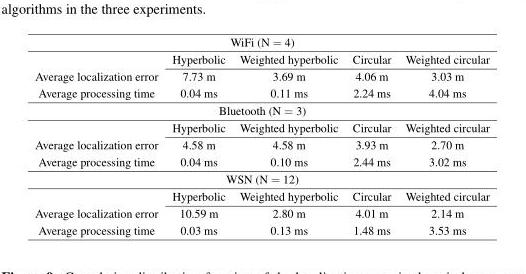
<table><tbody><tr><td colspan="5">WiFi (N = 4)</td></tr><tr><td></td><td>Hyperbolic</td><td>Weighted hyperbolic</td><td>Circular</td><td>Weighted circular</td></tr><tr><td>Average localization error</td><td>7.73 m</td><td>3.69 m</td><td>4.06 m</td><td>3.03 m</td></tr><tr><td>Average processing time</td><td>0.04 ms</td><td>0.11 ms</td><td>2.24 ms</td><td>4.04 ms</td></tr><tr><td colspan="5">Bluetooth (N = 3)</td></tr><tr><td></td><td>Hyperbolic</td><td>Weighted hyperbolic</td><td>Circular</td><td>Weighted circular</td></tr><tr><td>Average localization error</td><td>4.58 m</td><td>4.58 m</td><td>3.93 m</td><td>2.70 m</td></tr><tr><td>Average processing time</td><td>0.04 ms</td><td>0.10 ms</td><td>2.44 ms</td><td>3.02 ms</td></tr><tr><td colspan="5">WSN (N = 12)</td></tr><tr><td></td><td>Hyperbolic</td><td>Weighted hyperbolic</td><td>Circular</td><td>Weighted circular</td></tr><tr><td>Average localization error</td><td>10.59 m</td><td>2.80 m</td><td>4.01 m</td><td>2.14 m</td></tr><tr><td>Average processing time</td><td>0.03 ms</td><td>0.13 ms</td><td>1.48 ms</td><td>3.53 ms</td></tr></tbody></table>